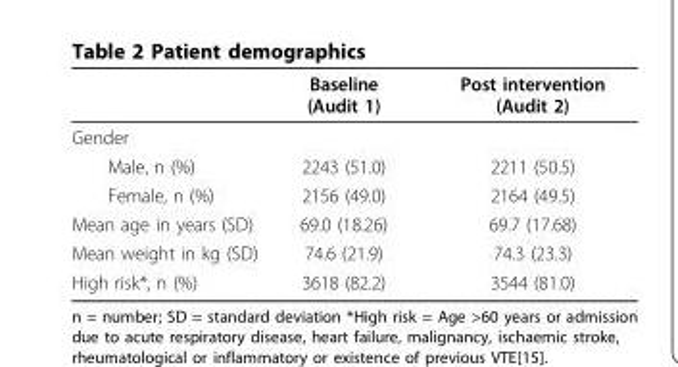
<table><thead><tr><td></td><td>Baseline (Audit 1)</td><td>Post intervention (Audit 2)</td></tr></thead><tbody><tr><td colspan="3">Gender</td></tr><tr><td>Male, n (%)</td><td>2243 (51.0)</td><td>2211 (50.5)</td></tr><tr><td>Female, n (%)</td><td>2156 (49.0)</td><td>2164 (49.5)</td></tr><tr><td>Mean age in years (SD)</td><td>69.0 (18.26)</td><td>69.7 (17.68)</td></tr><tr><td>Mean weight in kg (SD)</td><td>74.6 (21.9)</td><td>74.3 (23.3)</td></tr><tr><td>High risk*, n (%)</td><td>3618 (82.2)</td><td>3544 (81.0)</td></tr></tbody></table>